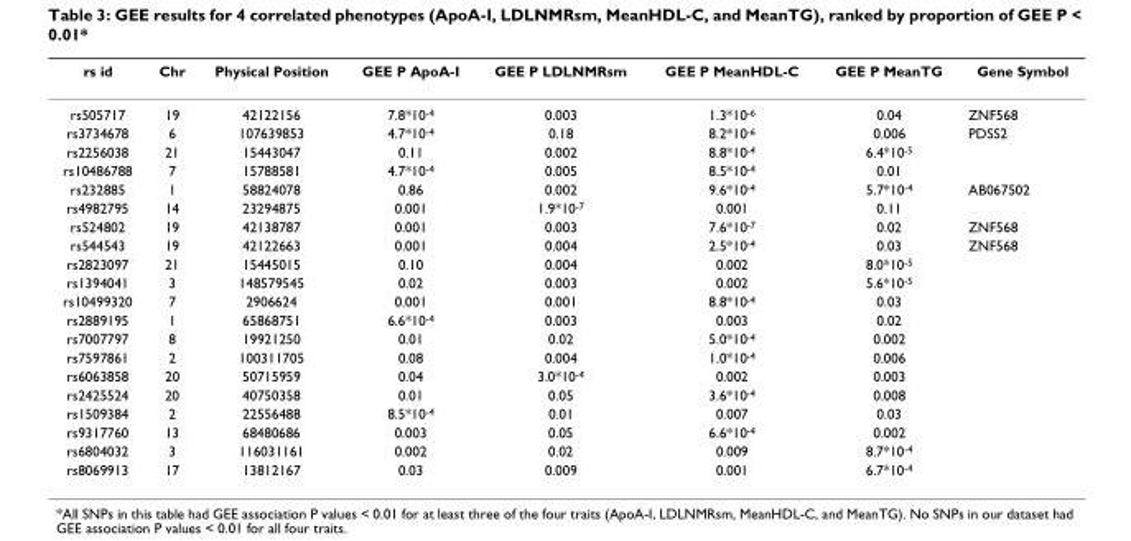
<table><thead><tr><td>rs id</td><td>Chr</td><td>Physical Position</td><td>GEE P ApoA-I</td><td>GEE P LDLNMRsm</td><td>GEE P MeanHDL-C</td><td>GEE P MeanTG</td><td>Gene Symbol</td></tr></thead><tbody><tr><td>rs505717</td><td>19</td><td>42122156</td><td>7.8*10<sup>-4</sup></td><td>0.003</td><td>1.3*10<sup>-6</sup></td><td>0.04</td><td>ZNF568</td></tr><tr><td>rs3734678</td><td>6</td><td>107639853</td><td>4.7*10<sup>-4</sup></td><td>0.18</td><td>8.2*10<sup>-6</sup></td><td>0.006</td><td>PDSS2</td></tr><tr><td>rs2256038</td><td>21</td><td>15443047</td><td>0.11</td><td>0.002</td><td>8.8*10<sup>-4</sup></td><td>6.4*10<sup>-5</sup></td><td></td></tr><tr><td>rs10486788</td><td>7</td><td>15788581</td><td>4.7*10<sup>-4</sup></td><td>0.005</td><td>8.5*10<sup>-4</sup></td><td>0.01</td><td></td></tr><tr><td>rs232885</td><td>1</td><td>58824078</td><td>0.86</td><td>0.002</td><td>9.6*10<sup>-4</sup></td><td>5.7*10<sup>-4</sup></td><td>AB067502</td></tr><tr><td>rs4982795</td><td>14</td><td>23294875</td><td>0.001</td><td>1.9*10<sup>-7</sup></td><td>0.001</td><td>0.11</td><td></td></tr><tr><td>rs524802</td><td>19</td><td>42138787</td><td>0.001</td><td>0.003</td><td>7.6*10<sup>-7</sup></td><td>0.02</td><td>ZNF568</td></tr><tr><td>rs544543</td><td>19</td><td>42122663</td><td>0.001</td><td>0.004</td><td>2.5*10<sup>-4</sup></td><td>0.03</td><td>ZNF568</td></tr><tr><td>rs2823097</td><td>21</td><td>15445015</td><td>0.10</td><td>0.004</td><td>0.002</td><td>8.0*10<sup>-5</sup></td><td></td></tr><tr><td>rs1394041</td><td>3</td><td>148579545</td><td>0.02</td><td>0.003</td><td>0.002</td><td>5.6*10<sup>-5</sup></td><td></td></tr><tr><td>rs10499320</td><td>7</td><td>2906624</td><td>0.001</td><td>0.001</td><td>8.8*10<sup>-4</sup></td><td>0.03</td><td></td></tr><tr><td>rs2889195</td><td>1</td><td>65868751</td><td>6.6*10<sup>-4</sup></td><td>0.003</td><td>0.003</td><td>0.02</td><td></td></tr><tr><td>rs7007797</td><td>8</td><td>19921250</td><td>0.01</td><td>0.02</td><td>5.0*10<sup>-4</sup></td><td>0.002</td><td></td></tr><tr><td>rs7597861</td><td>2</td><td>100311705</td><td>0.08</td><td>0.004</td><td>1.0*10<sup>-4</sup></td><td>0.006</td><td></td></tr><tr><td>rs6063858</td><td>20</td><td>50715959</td><td>0.04</td><td>3.0*10<sup>-4</sup></td><td>0.002</td><td>0.003</td><td></td></tr><tr><td>rs2425524</td><td>20</td><td>40750358</td><td>0.01</td><td>0.05</td><td>3.6*10<sup>-4</sup></td><td>0.008</td><td></td></tr><tr><td>rs1509384</td><td>2</td><td>22556488</td><td>8.5*10<sup>-4</sup></td><td>0.01</td><td>0.007</td><td>0.03</td><td></td></tr><tr><td>rs9317760</td><td>13</td><td>68480686</td><td>0.003</td><td>0.05</td><td>6.6*10<sup>-4</sup></td><td>0.002</td><td></td></tr><tr><td>rs6804032</td><td>3</td><td>116031161</td><td>0.002</td><td>0.02</td><td>0.009</td><td>8.7*10<sup>-4</sup></td><td></td></tr><tr><td>rs8069913</td><td>17</td><td>13812167</td><td>0.03</td><td>0.009</td><td>0.001</td><td>6.7*10<sup>-4</sup></td><td></td></tr></tbody></table>